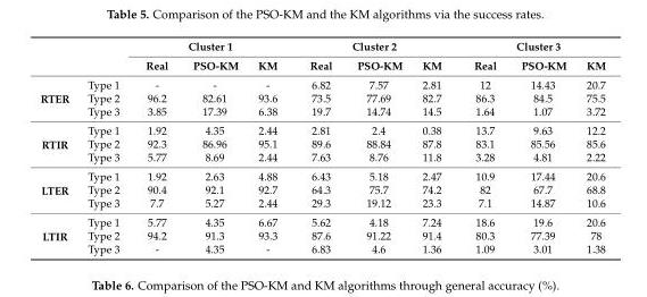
<table><thead><tr><td rowspan="2"></td><td rowspan="2"></td><td colspan="3">Cluster 1</td><td colspan="3">Cluster 2</td><td colspan="3">Cluster 3</td></tr><tr><td>Real</td><td>PSO-KM</td><td>KM</td><td>Real</td><td>PSO-KM</td><td>KM</td><td>Real</td><td>PSO-KM</td><td>KM</td></tr></thead><tbody><tr><td rowspan="3">RTER</td><td>Type 1</td><td>-</td><td>-</td><td>-</td><td>6.82</td><td>7.57</td><td>2.81</td><td>12</td><td>14.43</td><td>20.7</td></tr><tr><td>Type 2</td><td>96.2</td><td>82.61</td><td>93.6</td><td>73.5</td><td>77.69</td><td>82.7</td><td>86.3</td><td>84.5</td><td>75.5</td></tr><tr><td>Type 3</td><td>3.85</td><td>17.39</td><td>6.38</td><td>19.7</td><td>14.74</td><td>14.5</td><td>1.64</td><td>1.07</td><td>3.72</td></tr><tr><td rowspan="3">RTIR</td><td>Type 1</td><td>1.92</td><td>4.35</td><td>2.44</td><td>2.81</td><td>2.4</td><td>0.38</td><td>13.7</td><td>9.63</td><td>12.2</td></tr><tr><td>Type 2</td><td>92.3</td><td>86.96</td><td>95.1</td><td>89.6</td><td>88.84</td><td>87.8</td><td>83.1</td><td>85.56</td><td>85.6</td></tr><tr><td>Type 3</td><td>5.77</td><td>8.69</td><td>2.44</td><td>7.63</td><td>8.76</td><td>11.8</td><td>3.28</td><td>4.81</td><td>2.22</td></tr><tr><td rowspan="3">LTER</td><td>Type 1</td><td>1.92</td><td>2.63</td><td>4.88</td><td>6.43</td><td>5.18</td><td>2.47</td><td>10.9</td><td>17.44</td><td>20.6</td></tr><tr><td>Type 2</td><td>90.4</td><td>92.1</td><td>92.7</td><td>64.3</td><td>75.7</td><td>74.2</td><td>82</td><td>67.7</td><td>68.8</td></tr><tr><td>Type 3</td><td>7.7</td><td>5.27</td><td>2.44</td><td>29.3</td><td>19.12</td><td>23.3</td><td>7.1</td><td>14.87</td><td>10.6</td></tr><tr><td rowspan="3">LTIR</td><td>Type 1</td><td>5.77</td><td>4.35</td><td>6.67</td><td>5.62</td><td>4.18</td><td>7.24</td><td>18.6</td><td>19.6</td><td>20.6</td></tr><tr><td>Type 2</td><td>94.2</td><td>91.3</td><td>93.3</td><td>87.6</td><td>91.22</td><td>91.4</td><td>80.3</td><td>77.39</td><td>78</td></tr><tr><td>Type 3</td><td>-</td><td>4.35</td><td>-</td><td>6.83</td><td>4.6</td><td>1.36</td><td>1.09</td><td>3.01</td><td>1.38</td></tr></tbody></table>